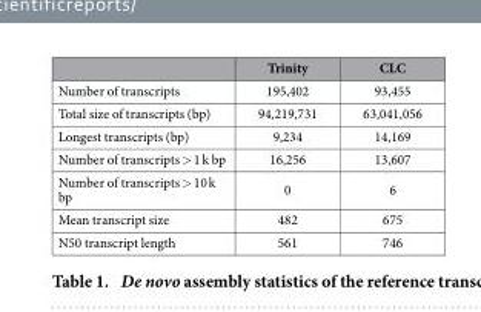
<table><thead><tr><td></td><td>Trinity</td><td>CLC</td></tr></thead><tbody><tr><td>Number of transcripts</td><td>195,402</td><td>93,455</td></tr><tr><td>Total size of transcripts (bp)</td><td>94,219,731</td><td>63,041,056</td></tr><tr><td>Longest transcripts (bp)</td><td>9,234</td><td>14,169</td></tr><tr><td>Number of transcripts &gt; 1 k bp</td><td>16,256</td><td>13,607</td></tr><tr><td>Number of transcripts &gt; 10 k bp</td><td>0</td><td>6</td></tr><tr><td>Mean transcript size</td><td>482</td><td>675</td></tr><tr><td>N50 transcript length</td><td>561</td><td>746</td></tr></tbody></table>